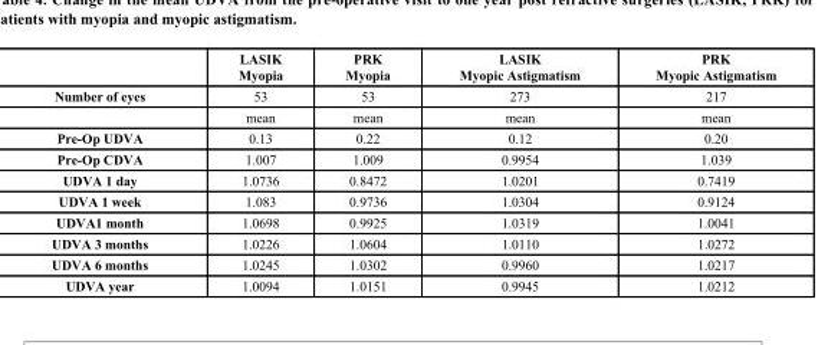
<table><thead><tr><td></td><td>LASIK Myopia</td><td>PRK Myopia</td><td>LASIK Myopic Astigmatism</td><td>PRK Myopic Astigmatism</td></tr></thead><tbody><tr><td rowspan="2">Number of eyes</td><td>53</td><td>53</td><td>273</td><td>217</td></tr><tr><td>mean</td><td>mean</td><td>mean</td><td>mean</td></tr><tr><td>Pre-Op UDVA</td><td>0.13</td><td>0.22</td><td>0.12</td><td>0.20</td></tr><tr><td>Pre-Op CDVA</td><td>1.007</td><td>1.009</td><td>0.9954</td><td>1.039</td></tr><tr><td>UDVA 1 day</td><td>1.0736</td><td>0.8472</td><td>1.0201</td><td>0.7419</td></tr><tr><td>UDVA 1 week</td><td>1.083</td><td>0.9736</td><td>1.0304</td><td>0.9124</td></tr><tr><td>UDVA1 month</td><td>1.0698</td><td>0.9925</td><td>1.0319</td><td>1.0041</td></tr><tr><td>UDVA 3 months</td><td>1.0226</td><td>1.0604</td><td>1.0110</td><td>1.0272</td></tr><tr><td>UDVA 6 months</td><td>1.0245</td><td>1.0302</td><td>0.9960</td><td>1.0217</td></tr><tr><td>UDVA year</td><td>1.0094</td><td>1.0151</td><td>0.9945</td><td>1.0212</td></tr></tbody></table>